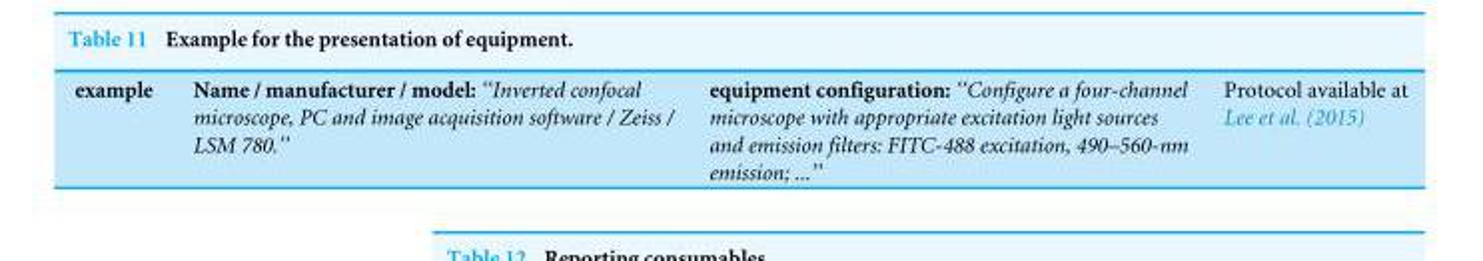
<table><tbody><tr><td>example</td><td>Name / manufacturer / model: ‘‘Inverted confocal microscope, PC and image acquisition software / Zeiss / LSM 780.’’</td><td>equipment configuration: ‘‘Configure a four-channel microscope with appropriate excitation light sources and emission filters: FITC-488 excitation, 490–560-nm emission; ...’’</td><td>Protocol available at Lee et al. (2015)</td></tr></tbody></table>